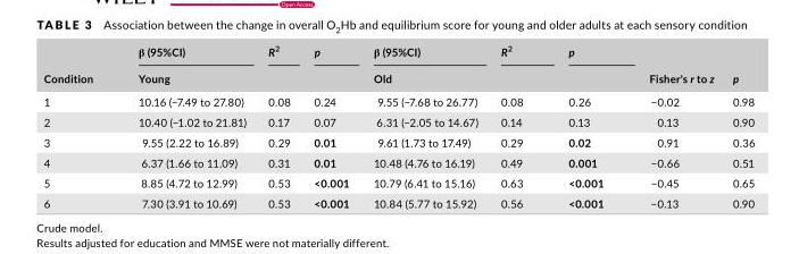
<table><thead><tr><td rowspan="2">Condition</td><td>β (95%CI)</td><td>R<sup>2</sup></td><td>p</td><td>β (95%CI)</td><td>R<sup>2</sup></td><td>p</td><td rowspan="2">Fisher&#x27;s r to z</td><td rowspan="2">p</td></tr><tr><td colspan="3">Young</td><td colspan="3">Old</td></tr></thead><tbody><tr><td>1</td><td>10.16 (−7.49 to 27.80)</td><td>0.08</td><td>0.24</td><td>9.55 (−7.68 to 26.77)</td><td>0.08</td><td>0.26</td><td>−0.02</td><td>0.98</td></tr><tr><td>2</td><td>10.40 (−1.02 to 21.81)</td><td>0.17</td><td>0.07</td><td>6.31 (−2.05 to 14.67)</td><td>0.14</td><td>0.13</td><td>0.13</td><td>0.90</td></tr><tr><td>3</td><td>9.55 (2.22 to 16.89)</td><td>0.29</td><td>0.01</td><td>9.61 (1.73 to 17.49)</td><td>0.29</td><td>0.02</td><td>0.91</td><td>0.36</td></tr><tr><td>4</td><td>6.37 (1.66 to 11.09)</td><td>0.31</td><td>0.01</td><td>10.48 (4.76 to 16.19)</td><td>0.49</td><td>0.001</td><td>−0.66</td><td>0.51</td></tr><tr><td>5</td><td>8.85 (4.72 to 12.99)</td><td>0.53</td><td>&lt;0.001</td><td>10.79 (6.41 to 15.16)</td><td>0.63</td><td>&lt;0.001</td><td>−0.45</td><td>0.65</td></tr><tr><td>6</td><td>7.30 (3.91 to 10.69)</td><td>0.53</td><td>&lt;0.001</td><td>10.84 (5.77 to 15.92)</td><td>0.56</td><td>&lt;0.001</td><td>−0.13</td><td>0.90</td></tr></tbody></table>